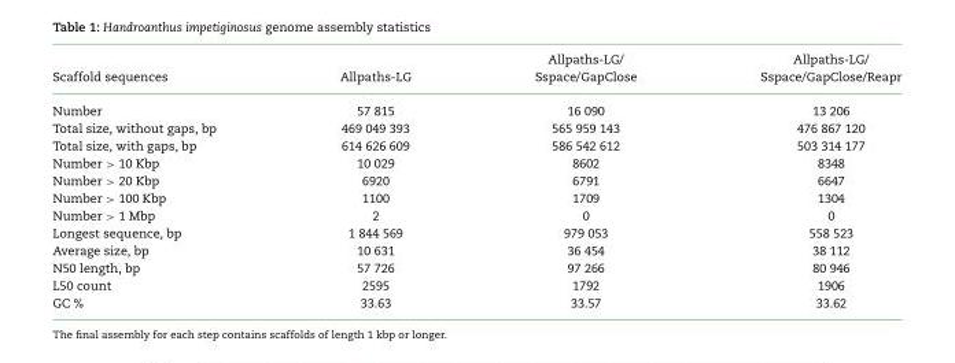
<table><thead><tr><td rowspan="2">Scaffold sequences</td><td rowspan="2">Allpaths-LG</td><td rowspan="2">Allpaths-LG/ Sspace/GapClose</td><td rowspan="2">Allpaths-LG/ Sspace/GapClose/Reapr</td></tr><tr></tr></thead><tbody><tr><td>Number</td><td>57 815</td><td>16 090</td><td>13 206</td></tr><tr><td>Total size, without gaps, bp</td><td>469 049 393</td><td>565 959 143</td><td>476 867 120</td></tr><tr><td>Total size, with gaps, bp</td><td>614 626 609</td><td>586 542 612</td><td>503 314 177</td></tr><tr><td>Number &gt; 10 Kbp</td><td>10 029</td><td>8602</td><td>8348</td></tr><tr><td>Number &gt; 20 Kbp</td><td>6920</td><td>6791</td><td>6647</td></tr><tr><td>Number &gt; 100 Kbp</td><td>1100</td><td>1709</td><td>1304</td></tr><tr><td>Number &gt; 1 Mbp</td><td>2</td><td>0</td><td>0</td></tr><tr><td>Longest sequence, bp</td><td>1 844 569</td><td>979 053</td><td>558 523</td></tr><tr><td>Average size, bp</td><td>10 631</td><td>36 454</td><td>38 112</td></tr><tr><td>N50 length, bp</td><td>57 726</td><td>97 266</td><td>80 946</td></tr><tr><td>L50 count</td><td>2595</td><td>1792</td><td>1906</td></tr><tr><td>GC %</td><td>33.63</td><td>33.57</td><td>33.62</td></tr></tbody></table>